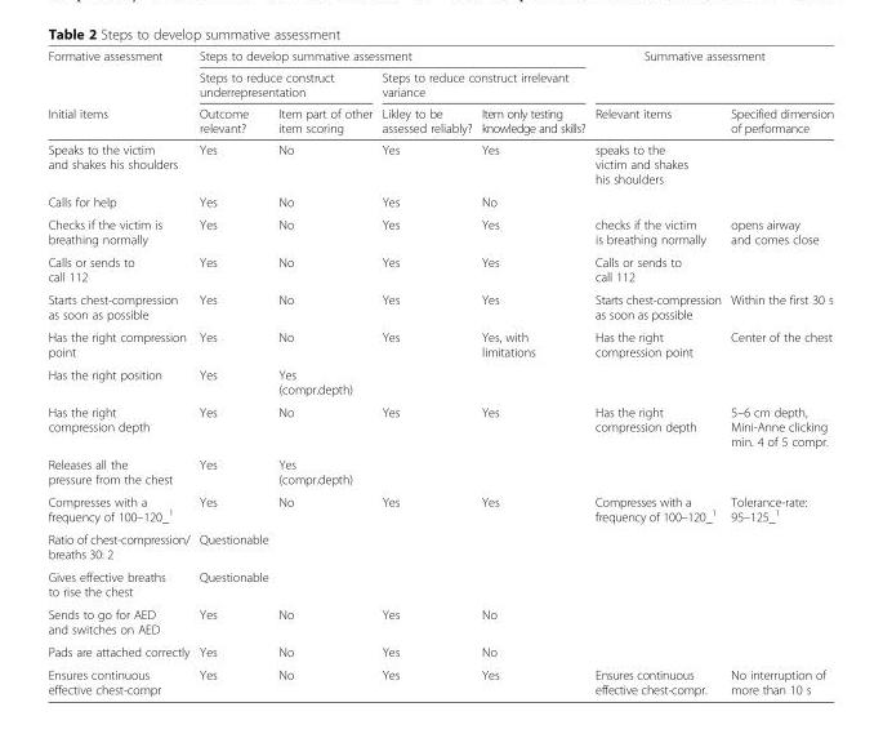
<table><thead><tr><td rowspan="3">Formative assessment Initial items</td><td colspan="4">Steps to develop summative assessment</td><td colspan="2">Summative assessment</td></tr><tr><td colspan="2">Steps to reduce construct underrepresentation</td><td colspan="2">Steps to reduce construct irrelevant variance</td><td rowspan="2">Relevant items</td><td rowspan="2">Specified dimension of performance</td></tr><tr><td>Outcome relevant?</td><td>Item part of other item scoring</td><td>Likley to be assessed reliably?</td><td>Item only testing knowledge and skills?</td></tr></thead><tbody><tr><td>Speaks to the victim and shakes his shoulders</td><td>Yes</td><td>No</td><td>Yes</td><td>Yes</td><td colspan="2">speaks to the victim and shakes his shoulders</td></tr><tr><td>Calls for help</td><td>Yes</td><td>No</td><td>Yes</td><td>No</td><td colspan="2"></td></tr><tr><td>Checks if the victim is breathing normally</td><td>Yes</td><td>No</td><td>Yes</td><td>Yes</td><td>checks if the victim is breathing normally</td><td>opens airway and comes close</td></tr><tr><td>Calls or sends to call 112</td><td>Yes</td><td>No</td><td>Yes</td><td>Yes</td><td colspan="2">Calls or sends to call 112</td></tr><tr><td>Starts chest-compression as soon as possible</td><td>Yes</td><td>No</td><td>Yes</td><td>Yes</td><td>Starts chest-compression as soon as possible</td><td>Within the first 30 s</td></tr><tr><td>Has the right compression point</td><td>Yes</td><td>No</td><td>Yes</td><td>Yes, with limitations</td><td>Has the right compression point</td><td>Center of the chest</td></tr><tr><td>Has the right position</td><td>Yes</td><td>Yes (compr.depth)</td><td></td><td></td><td></td><td></td></tr><tr><td>Has the right compression depth</td><td>Yes</td><td>No</td><td>Yes</td><td>Yes</td><td>Has the right compression depth</td><td>5–6 cm depth, Mini-Anne clicking min. 4 of 5 compr.</td></tr><tr><td>Releases all the pressure from the chest</td><td>Yes</td><td>Yes (compr.depth)</td><td></td><td></td><td></td><td></td></tr><tr><td>Compresses with a frequency of 100–120_<sup>1</sup></td><td>Yes</td><td>No</td><td>Yes</td><td>Yes</td><td>Compresses with a frequency of 100–120_<sup>1</sup></td><td>Tolerance-rate: 95–125_<sup>1</sup></td></tr><tr><td>Ratio of chest-compression/ breaths 30: 2</td><td>Questionable</td><td></td><td></td><td></td><td></td><td></td></tr><tr><td>Gives effective breaths to rise the chest</td><td>Questionable</td><td></td><td></td><td></td><td></td><td></td></tr><tr><td>Sends to go for AED and switches on AED</td><td>Yes</td><td>No</td><td>Yes</td><td>No</td><td></td><td></td></tr><tr><td>Pads are attached correctly</td><td>Yes</td><td>No</td><td>Yes</td><td>No</td><td></td><td></td></tr><tr><td>Ensures continuous effective chest-compr</td><td>Yes</td><td>No</td><td>Yes</td><td>Yes</td><td>Ensures continuous effective chest-compr.</td><td>No interruption of more than 10 s</td></tr></tbody></table>